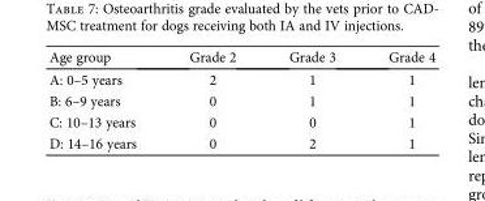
<table><thead><tr><td>Age group</td><td>Grade 2</td><td>Grade 3</td><td>Grade 4</td></tr></thead><tbody><tr><td>A: 0–5 years</td><td>2</td><td>1</td><td>1</td></tr><tr><td>B: 6–9 years</td><td>0</td><td>1</td><td>1</td></tr><tr><td>C: 10–13 years</td><td>0</td><td>0</td><td>1</td></tr><tr><td>D: 14–16 years</td><td>0</td><td>2</td><td>1</td></tr></tbody></table>